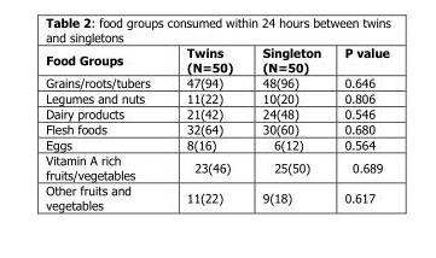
<table><thead><tr><td>Food Groups</td><td>Twins (N=50)</td><td>Singleton (N=50)</td><td>P value</td></tr></thead><tbody><tr><td>Grains/roots/tubers</td><td>47(94)</td><td>48(96)</td><td>0.646</td></tr><tr><td>Legumes and nuts</td><td>11(22)</td><td>10(20)</td><td>0.806</td></tr><tr><td>Dairy products</td><td>21(42)</td><td>24(48)</td><td>0.546</td></tr><tr><td>Flesh foods</td><td>32(64)</td><td>30(60)</td><td>0.680</td></tr><tr><td>Eggs</td><td>8(16)</td><td>6(12)</td><td>0.564</td></tr><tr><td>Vitamin A rich fruits/vegetables</td><td>23(46)</td><td>25(50)</td><td>0.689</td></tr><tr><td>Other fruits and vegetables</td><td>11(22)</td><td>9(18)</td><td>0.617</td></tr></tbody></table>